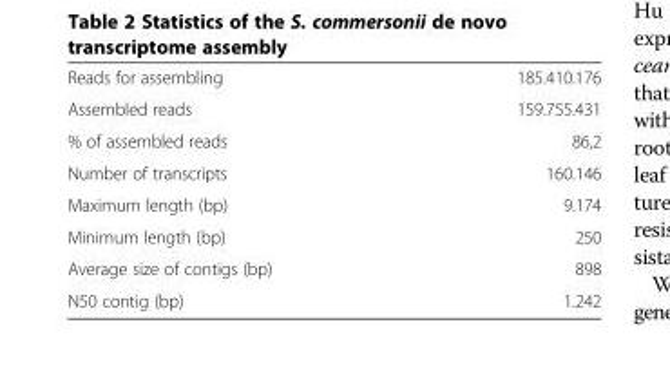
<table><tbody><tr><td>Reads for assembling</td><td>185.410.176</td></tr><tr><td>Assembled reads</td><td>159.755.431</td></tr><tr><td>% of assembled reads</td><td>86,2</td></tr><tr><td>Number of transcripts</td><td>160.146</td></tr><tr><td>Maximum length (bp)</td><td>9.174</td></tr><tr><td>Minimum length (bp)</td><td>250</td></tr><tr><td>Average size of contigs (bp)</td><td>898</td></tr><tr><td>N50 contig (bp)</td><td>1.242</td></tr></tbody></table>